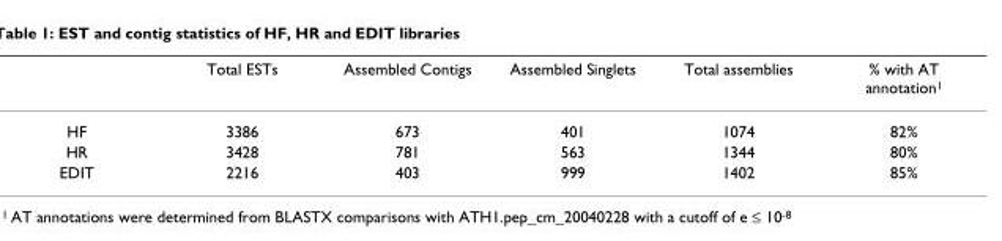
<table><thead><tr><td></td><td>Total ESTs</td><td>Assembled Contigs</td><td>Assembled Singlets</td><td>Total assemblies</td><td>% with AT annotation1</td></tr></thead><tbody><tr><td>HF</td><td>3386</td><td>673</td><td>401</td><td>1074</td><td>82%</td></tr><tr><td>HR</td><td>3428</td><td>781</td><td>563</td><td>1344</td><td>80%</td></tr><tr><td>EDIT</td><td>2216</td><td>403</td><td>999</td><td>1402</td><td>85%</td></tr></tbody></table>